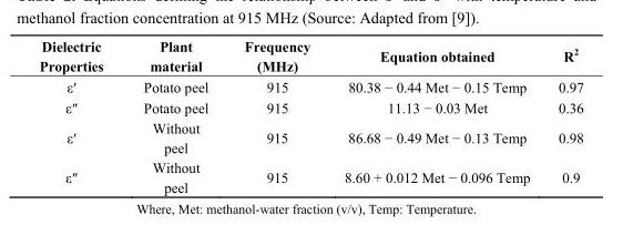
<table><thead><tr><td>Dielectric Properties</td><td>Plant material</td><td>Frequency (MHz)</td><td>Equation obtained</td><td>R<sup>2</sup></td></tr></thead><tbody><tr><td>ε′</td><td>Potato peel</td><td>915</td><td>80.38 − 0.44 Met − 0.15 Temp</td><td>0.97</td></tr><tr><td>ε″</td><td>Potato peel</td><td>915</td><td>11.13 − 0.03 Met</td><td>0.36</td></tr><tr><td>ε′</td><td>Without peel</td><td>915</td><td>86.68 − 0.49 Met − 0.13 Temp</td><td>0.98</td></tr><tr><td>ε″</td><td>Without peel</td><td>915</td><td>8.60 + 0.012 Met − 0.096 Temp</td><td>0.9</td></tr></tbody></table>